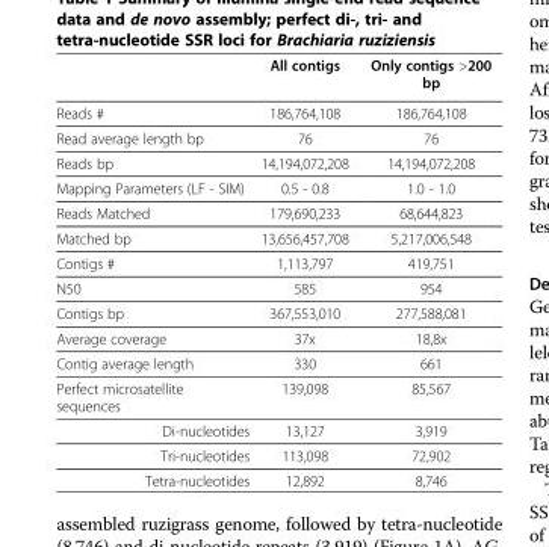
<table><thead><tr><td></td><td>All contigs</td><td>Only contigs &gt;200 bp</td></tr></thead><tbody><tr><td>Reads #</td><td>186,764,108</td><td>186,764,108</td></tr><tr><td>Read average length bp</td><td>76</td><td>76</td></tr><tr><td>Reads bp</td><td>14,194,072,208</td><td>14,194,072,208</td></tr><tr><td>Mapping Parameters (LF - SIM)</td><td>0.5 - 0.8</td><td>1.0 - 1.0</td></tr><tr><td>Reads Matched</td><td>179,690,233</td><td>68,644,823</td></tr><tr><td>Matched bp</td><td>13,656,457,708</td><td>5,217,006,548</td></tr><tr><td>Contigs #</td><td>1,113,797</td><td>419,751</td></tr><tr><td>N50</td><td>585</td><td>954</td></tr><tr><td>Contigs bp</td><td>367,553,010</td><td>277,588,081</td></tr><tr><td>Average coverage</td><td>37x</td><td>18,8x</td></tr><tr><td>Contig average length</td><td>330</td><td>661</td></tr><tr><td>Perfect microsatellite sequences</td><td>139,098</td><td>85,567</td></tr><tr><td>Di-nucleotides</td><td>13,127</td><td>3,919</td></tr><tr><td>Tri-nucleotides</td><td>113,098</td><td>72,902</td></tr><tr><td>Tetra-nucleotides</td><td>12,892</td><td>8,746</td></tr></tbody></table>